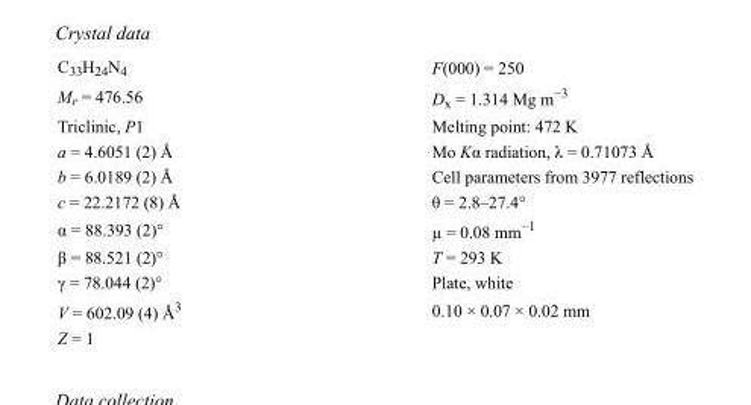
<table><tbody><tr><td>C<sub>33</sub>H<sub>24</sub>N<sub>4</sub></td><td>F(000) = 250</td></tr><tr><td>M<sub>r</sub> = 476.56</td><td>D<sub>x</sub> = 1.314 Mg m<sup>−3</sup></td></tr><tr><td>Triclinic, P1</td><td>Melting point: 472 K</td></tr><tr><td>a = 4.6051 (2) Å</td><td>Mo Kα radiation, λ = 0.71073 Å</td></tr><tr><td>b = 6.0189 (2) Å</td><td>Cell parameters from 3977 reflections</td></tr><tr><td>c = 22.2172 (8) Å</td><td>θ = 2.8–27.4°</td></tr><tr><td>α = 88.393 (2)°</td><td>µ = 0.08 mm<sup>−1</sup></td></tr><tr><td>β = 88.521 (2)°</td><td>T = 293 K</td></tr><tr><td>γ = 78.044 (2)°</td><td>Plate, white</td></tr><tr><td>V = 602.09 (4) Å<sup>3</sup></td><td>0.10 × 0.07 × 0.02 mm</td></tr><tr><td>Z = 1</td><td></td></tr></tbody></table>